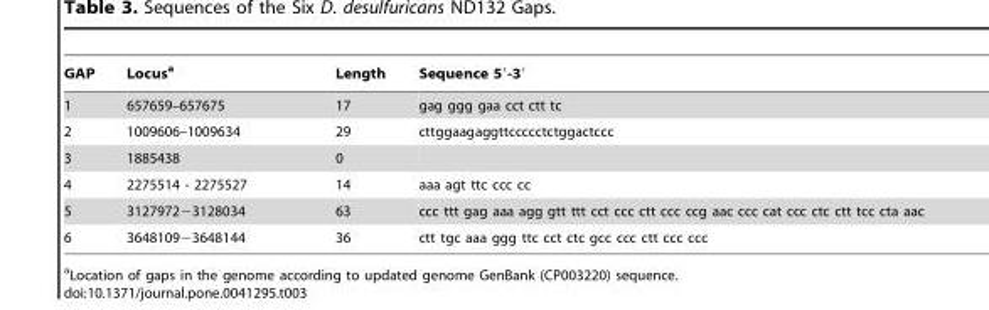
<table><thead><tr><td>GAP</td><td>Locus<sup>a</sup></td><td>Length</td><td>Sequence 5′-3′</td></tr></thead><tbody><tr><td>1</td><td>657659–657675</td><td>17</td><td>gag ggg gaa cct ctt tc</td></tr><tr><td>2</td><td>1009606–1009634</td><td>29</td><td>cttggaagaggttccccctctggactccc</td></tr><tr><td>3</td><td>1885438</td><td>0</td><td></td></tr><tr><td>4</td><td>2275514 - 2275527</td><td>14</td><td>aaa agt ttc ccc cc</td></tr><tr><td>5</td><td>3127972−3128034</td><td>63</td><td>ccc ttt gag aaa agg gtt ttt cct ccc ctt ccc ccg aac ccc cat ccc ctc ctt tcc cta aac</td></tr><tr><td>6</td><td>3648109−3648144</td><td>36</td><td>ctt tgc aaa ggg ttc cct ctc gcc ccc ctt ccc ccc</td></tr></tbody></table>